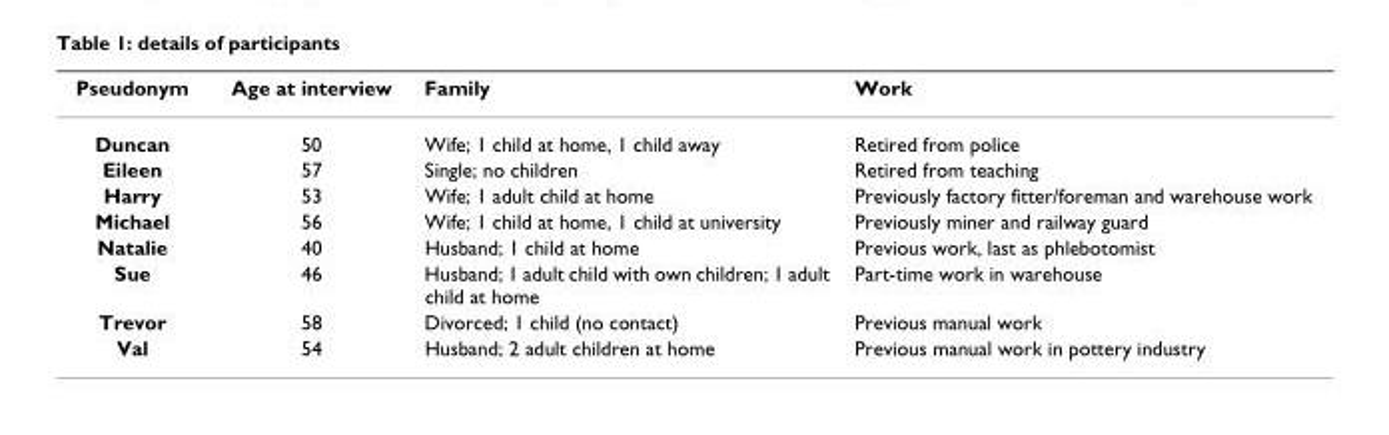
<table><thead><tr><td>Pseudonym</td><td>Age at interview</td><td>Family</td><td>Work</td></tr></thead><tbody><tr><td>Duncan</td><td>50</td><td>Wife; 1 child at home, 1 child away</td><td>Retired from police</td></tr><tr><td>Eileen</td><td>57</td><td>Single; no children</td><td>Retired from teaching</td></tr><tr><td>Harry</td><td>53</td><td>Wife; 1 adult child at home</td><td>Previously factory fitter/foreman and warehouse work</td></tr><tr><td>Michael</td><td>56</td><td>Wife; 1 child at home, 1 child at university</td><td>Previously miner and railway guard</td></tr><tr><td>Natalie</td><td>40</td><td>Husband; 1 child at home</td><td>Previous work, last as phlebotomist</td></tr><tr><td>Sue</td><td>46</td><td>Husband; 1 adult child with own children; 1 adult child at home</td><td>Part-time work in warehouse</td></tr><tr><td>Trevor</td><td>58</td><td>Divorced; 1 child (no contact)</td><td>Previous manual work</td></tr><tr><td>Val</td><td>54</td><td>Husband; 2 adult children at home</td><td>Previous manual work in pottery industry</td></tr></tbody></table>